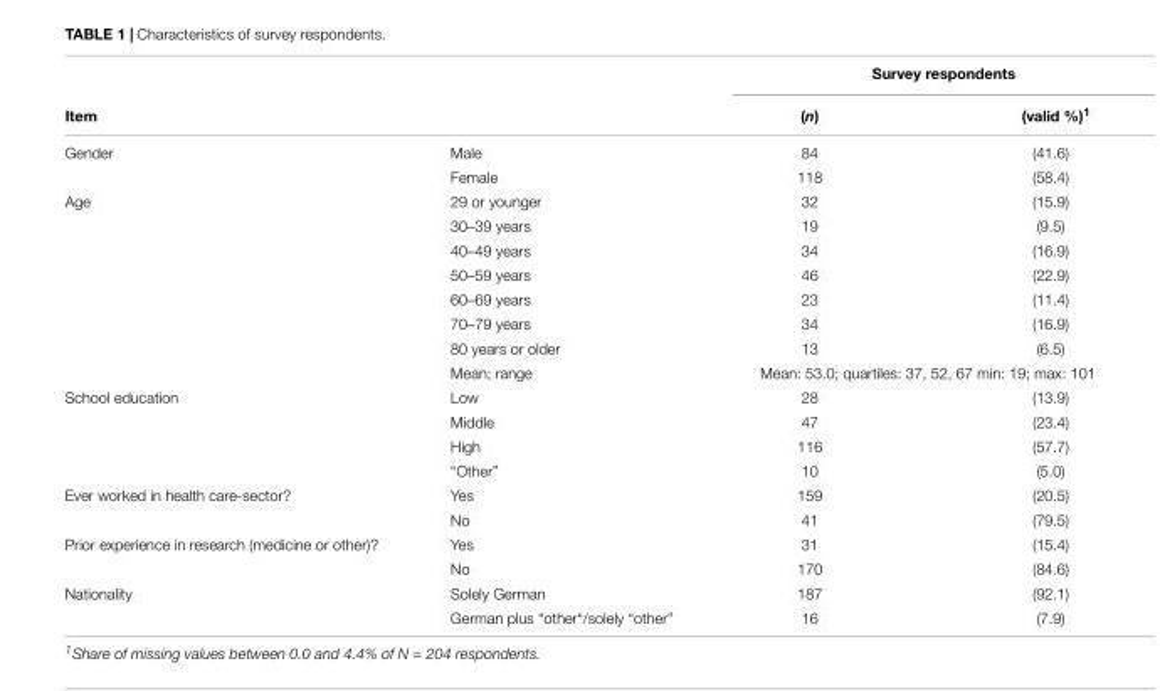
<table><thead><tr><td rowspan="2">Item</td><td rowspan="2"></td><td colspan="2">Survey respondents</td></tr><tr><td>(n)</td><td>(valid %)<sup>1</sup></td></tr></thead><tbody><tr><td rowspan="2">Gender</td><td>Male</td><td>84</td><td>(41.6)</td></tr><tr><td>Female</td><td>118</td><td>(58.4)</td></tr><tr><td rowspan="8">Age</td><td>29 or younger</td><td>32</td><td>(15.9)</td></tr><tr><td>30–39 years</td><td>19</td><td>(9.5)</td></tr><tr><td>40–49 years</td><td>34</td><td>(16.9)</td></tr><tr><td>50–59 years</td><td>46</td><td>(22.9)</td></tr><tr><td>60–69 years</td><td>23</td><td>(11.4)</td></tr><tr><td>70–79 years</td><td>34</td><td>(16.9)</td></tr><tr><td>80 years or older</td><td>13</td><td>(6.5)</td></tr><tr><td>Mean; range</td><td colspan="2">Mean: 53.0; quartiles: 37, 52, 67 min: 19; max: 101</td></tr><tr><td rowspan="4">School education</td><td>Low</td><td>28</td><td>(13.9)</td></tr><tr><td>Middle</td><td>47</td><td>(23.4)</td></tr><tr><td>High</td><td>116</td><td>(57.7)</td></tr><tr><td>“Other”</td><td>10</td><td>(5.0)</td></tr><tr><td rowspan="2">Ever worked in health care-sector?</td><td>Yes</td><td>159</td><td>(20.5)</td></tr><tr><td>No</td><td>41</td><td>(79.5)</td></tr><tr><td rowspan="2">Prior experience in research (medicine or other)?</td><td>Yes</td><td>31</td><td>(15.4)</td></tr><tr><td>No</td><td>170</td><td>(84.6)</td></tr><tr><td rowspan="2">Nationality</td><td>Solely German</td><td>187</td><td>(92.1)</td></tr><tr><td>German plus “other“/solely “other”</td><td>16</td><td>(7.9)</td></tr></tbody></table>